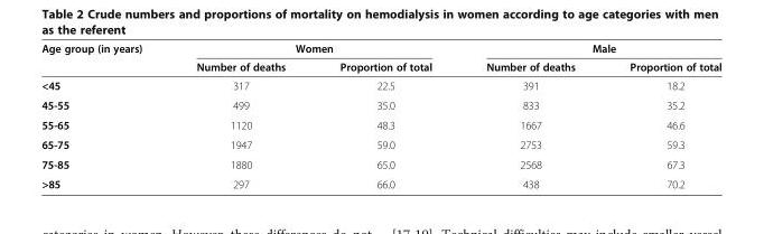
<table><thead><tr><td rowspan="2">Age group (in years)</td><td colspan="2">Women</td><td colspan="2">Male</td></tr><tr><td>Number of deaths</td><td>Proportion of total</td><td>Number of deaths</td><td>Proportion of total</td></tr></thead><tbody><tr><td>&lt;45</td><td>317</td><td>22.5</td><td>391</td><td>18.2</td></tr><tr><td>45-55</td><td>499</td><td>35.0</td><td>833</td><td>35.2</td></tr><tr><td>55-65</td><td>1120</td><td>48.3</td><td>1667</td><td>46.6</td></tr><tr><td>65-75</td><td>1947</td><td>59.0</td><td>2753</td><td>59.3</td></tr><tr><td>75-85</td><td>1880</td><td>65.0</td><td>2568</td><td>67.3</td></tr><tr><td>&gt;85</td><td>297</td><td>66.0</td><td>438</td><td>70.2</td></tr></tbody></table>